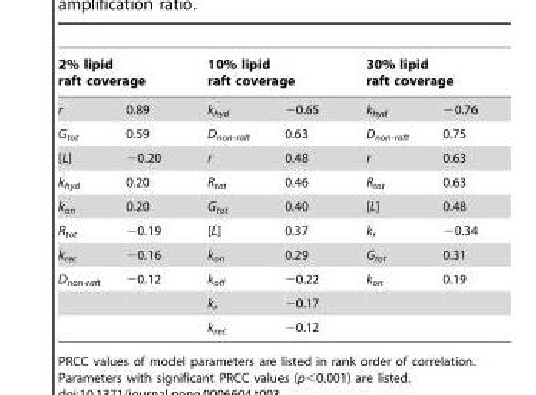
<table><thead><tr><td colspan="2">2% lipid raft coverage</td><td colspan="2">10% lipid raft coverage</td><td colspan="2">30% lipid raft coverage</td></tr><tr><td>r</td><td>0.89</td><td>k<sub>hyd</sub></td><td>−0.65</td><td>k<sub>hyd</sub></td><td>−0.76</td></tr></thead><tbody><tr><td>G<sub>tot</sub></td><td>0.59</td><td>D<sub>non-raft</sub></td><td>0.63</td><td>D<sub>non-raft</sub></td><td>0.75</td></tr><tr><td>[L]</td><td>−0.20</td><td>r</td><td>0.48</td><td>r</td><td>0.63</td></tr><tr><td>k<sub>hyd</sub></td><td>0.20</td><td>R<sub>tot</sub></td><td>0.46</td><td>R<sub>tot</sub></td><td>0.63</td></tr><tr><td>k<sub>on</sub></td><td>0.20</td><td>G<sub>tot</sub></td><td>0.40</td><td>[L]</td><td>0.48</td></tr><tr><td>R<sub>tot</sub></td><td>−0.19</td><td>[L]</td><td>0.37</td><td>k<sub>r</sub></td><td>−0.34</td></tr><tr><td>k<sub>rec</sub></td><td>−0.16</td><td>k<sub>on</sub></td><td>0.29</td><td>G<sub>tot</sub></td><td>0.31</td></tr><tr><td rowspan="3">D<sub>non-raft</sub></td><td>−0.12</td><td>k<sub>off</sub></td><td>−0.22</td><td>k<sub>on</sub></td><td>0.19</td></tr><tr><td></td><td>k<sub>r</sub></td><td>−0.17</td><td></td><td></td></tr><tr><td></td><td>k<sub>rec</sub></td><td>−0.12</td><td></td><td></td></tr></tbody></table>